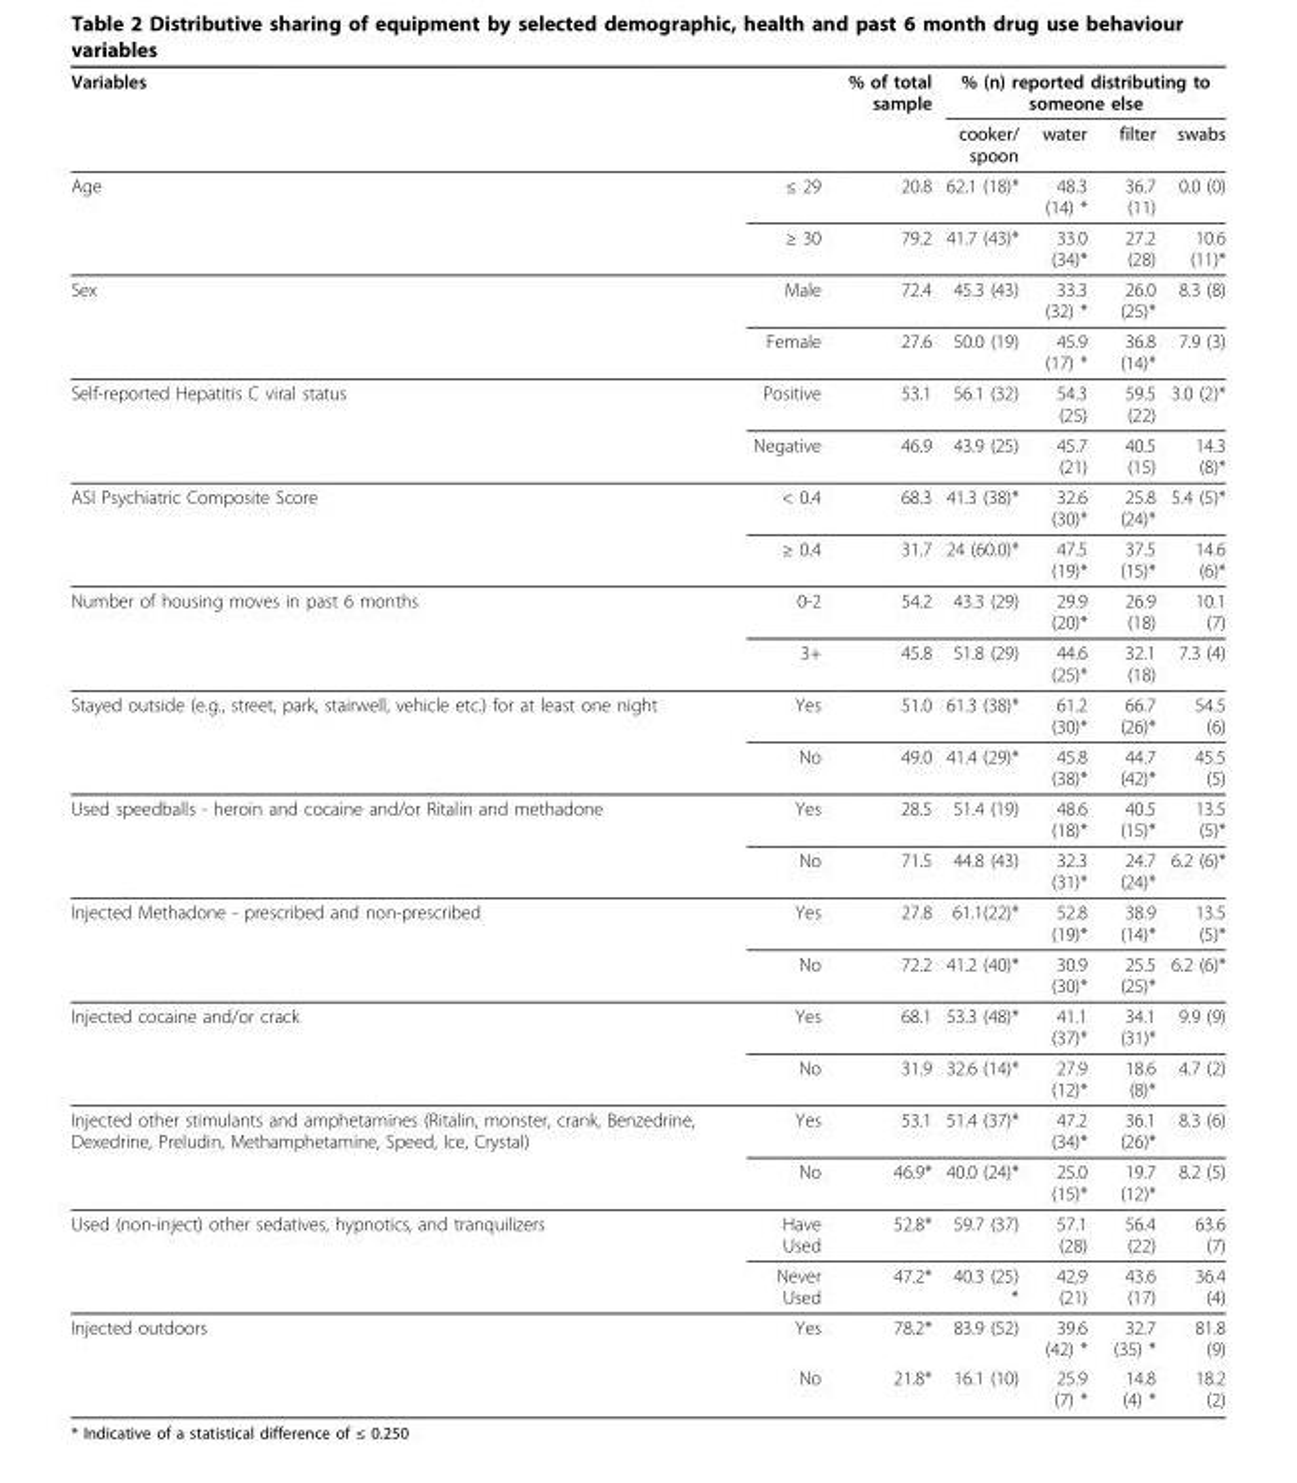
<table><thead><tr><td colspan="2">Variables</td><td rowspan="2">% of total sample</td><td colspan="4">% (n) reported distributing to someone else</td></tr><tr><td></td><td></td><td>cooker/ spoon</td><td>water</td><td>filter</td><td>swabs</td></tr></thead><tbody><tr><td rowspan="2">Age</td><td>≤ 29</td><td>20.8</td><td>62.1 (18)*</td><td>48.3 (14) *</td><td>36.7 (11)</td><td>0.0 (0)</td></tr><tr><td>≥ 30</td><td>79.2</td><td>41.7 (43)*</td><td>33.0 (34)*</td><td>27.2 (28)</td><td>10.6 (11)*</td></tr><tr><td rowspan="2">Sex</td><td>Male</td><td>72.4</td><td>45.3 (43)</td><td>33.3 (32) *</td><td>26.0 (25)*</td><td>8.3 (8)</td></tr><tr><td>Female</td><td>27.6</td><td>50.0 (19)</td><td>45.9 (17) *</td><td>36.8 (14)*</td><td>7.9 (3)</td></tr><tr><td rowspan="2">Self-reported Hepatitis C viral status</td><td>Positive</td><td>53.1</td><td>56.1 (32)</td><td>54.3 (25)</td><td>59.5 (22)</td><td>3.0 (2)*</td></tr><tr><td>Negative</td><td>46.9</td><td>43.9 (25)</td><td>45.7 (21)</td><td>40.5 (15)</td><td>14.3 (8)*</td></tr><tr><td rowspan="2">ASI Psychiatric Composite Score</td><td>&lt; 0.4</td><td>68.3</td><td>41.3 (38)*</td><td>32.6 (30)*</td><td>25.8 (24)*</td><td>5.4 (5)*</td></tr><tr><td>≥ 0.4</td><td>31.7</td><td>24 (60.0)*</td><td>47.5 (19)*</td><td>37.5 (15)*</td><td>14.6 (6)*</td></tr><tr><td rowspan="2">Number of housing moves in past 6 months</td><td>0-2</td><td>54.2</td><td>43.3 (29)</td><td>29.9 (20)*</td><td>26.9 (18)</td><td>10.1 (7)</td></tr><tr><td>3+</td><td>45.8</td><td>51.8 (29)</td><td>44.6 (25)*</td><td>32.1 (18)</td><td>7.3 (4)</td></tr><tr><td rowspan="2">Stayed outside (e.g., street, park, stairwell, vehicle etc.) for at least one night</td><td>Yes</td><td>51.0</td><td>61.3 (38)*</td><td>61.2 (30)*</td><td>66.7 (26)*</td><td>54.5 (6)</td></tr><tr><td>No</td><td>49.0</td><td>41.4 (29)*</td><td>45.8 (38)*</td><td>44.7 (42)*</td><td>45.5 (5)</td></tr><tr><td rowspan="2">Used speedballs - heroin and cocaine and/or Ritalin and methadone</td><td>Yes</td><td>28.5</td><td>51.4 (19)</td><td>48.6 (18)*</td><td>40.5 (15)*</td><td>13.5 (5)*</td></tr><tr><td>No</td><td>71.5</td><td>44.8 (43)</td><td>32.3 (31)*</td><td>24.7 (24)*</td><td>6.2 (6)*</td></tr><tr><td rowspan="2">Injected Methadone - prescribed and non-prescribed</td><td>Yes</td><td>27.8</td><td>61.1(22)*</td><td>52.8 (19)*</td><td>38.9 (14)*</td><td>13.5 (5)*</td></tr><tr><td>No</td><td>72.2</td><td>41.2 (40)*</td><td>30.9 (30)*</td><td>25.5 (25)*</td><td>6.2 (6)*</td></tr><tr><td rowspan="2">Injected cocaine and/or crack</td><td>Yes</td><td>68.1</td><td>53.3 (48)*</td><td>41.1 (37)*</td><td>34.1 (31)*</td><td>9.9 (9)</td></tr><tr><td>No</td><td>31.9</td><td>32.6 (14)*</td><td>27.9 (12)*</td><td>18.6 (8)*</td><td>4.7 (2)</td></tr><tr><td rowspan="2">Injected other stimulants and amphetamines (Ritalin, monster, crank, Benzedrine, Dexedrine, Preludin, Methamphetamine, Speed, Ice, Crystal)</td><td>Yes</td><td>53.1</td><td>51.4 (37)*</td><td>47.2 (34)*</td><td>36.1 (26)*</td><td>8.3 (6)</td></tr><tr><td>No</td><td>46.9*</td><td>40.0 (24)*</td><td>25.0 (15)*</td><td>19.7 (12)*</td><td>8.2 (5)</td></tr><tr><td rowspan="2">Used (non-inject) other sedatives, hypnotics, and tranquilizers</td><td>Have Used</td><td>52.8*</td><td>59.7 (37)</td><td>57.1 (28)</td><td>56.4 (22)</td><td>63.6 (7)</td></tr><tr><td>Never Used</td><td>47.2*</td><td>40.3 (25) *</td><td>42,9 (21)</td><td>43.6 (17)</td><td>36.4 (4)</td></tr><tr><td rowspan="2">Injected outdoors</td><td>Yes</td><td>78.2*</td><td>83.9 (52)</td><td>39.6 (42) *</td><td>32.7 (35) *</td><td>81.8 (9)</td></tr><tr><td>No</td><td>21.8*</td><td>16.1 (10)</td><td>25.9 (7) *</td><td>14.8 (4) *</td><td>18.2 (2)</td></tr></tbody></table>